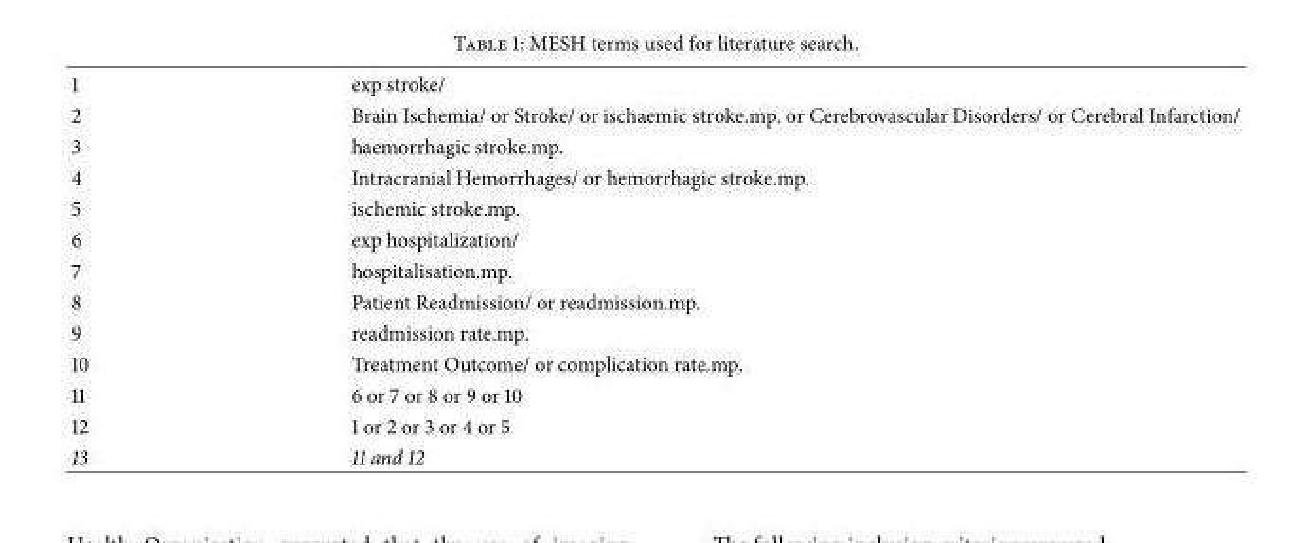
<table><tbody><tr><td>1</td><td>exp stroke/</td></tr><tr><td>2</td><td>Brain Ischemia/ or Stroke/ or ischaemic stroke.mp. or Cerebrovascular Disorders/ or Cerebral Infarction/</td></tr><tr><td>3</td><td>haemorrhagic stroke.mp.</td></tr><tr><td>4</td><td>Intracranial Hemorrhages/ or hemorrhagic stroke.mp.</td></tr><tr><td>5</td><td>ischemic stroke.mp.</td></tr><tr><td>6</td><td>exp hospitalization/</td></tr><tr><td>7</td><td>hospitalisation.mp.</td></tr><tr><td>8</td><td>Patient Readmission/ or readmission.mp.</td></tr><tr><td>9</td><td>readmission rate.mp.</td></tr><tr><td>10</td><td>Treatment Outcome/ or complication rate.mp.</td></tr><tr><td>11</td><td>6 or 7 or 8 or 9 or 10</td></tr><tr><td>12</td><td>1 or 2 or 3 or 4 or 5</td></tr><tr><td>13</td><td>11 and 12</td></tr></tbody></table>